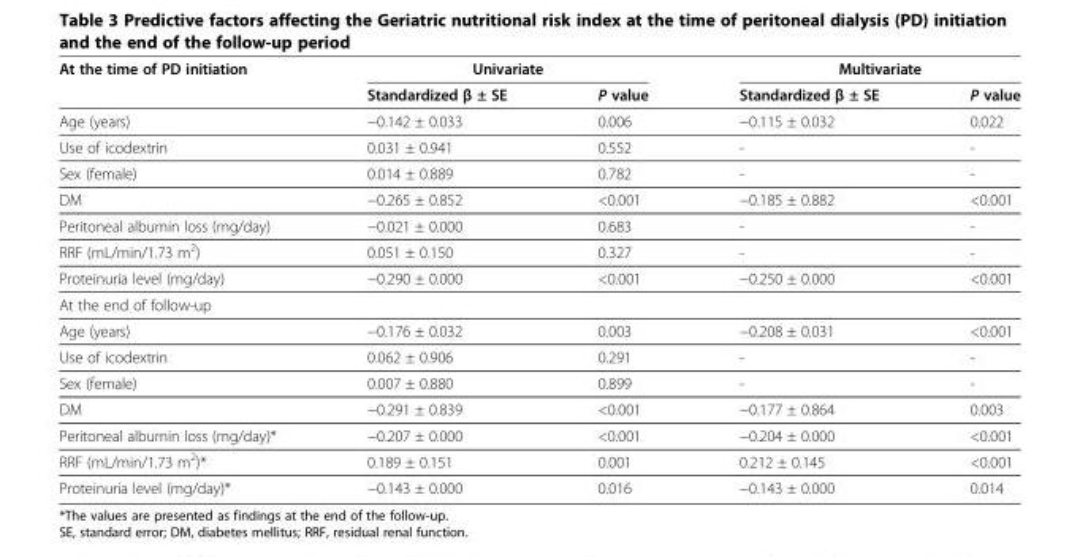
<table><thead><tr><td rowspan="2">At the time of PD initiation</td><td colspan="2">Univariate</td><td colspan="2">Multivariate</td></tr><tr><td>Standardized β ± SE</td><td>P value</td><td>Standardized β ± SE</td><td>P value</td></tr></thead><tbody><tr><td>Age (years)</td><td>−0.142 ± 0.033</td><td>0.006</td><td>−0.115 ± 0.032</td><td>0.022</td></tr><tr><td>Use of icodextrin</td><td>0.031 ± 0.941</td><td>0.552</td><td>-</td><td>-</td></tr><tr><td>Sex (female)</td><td>0.014 ± 0.889</td><td>0.782</td><td>-</td><td>-</td></tr><tr><td>DM</td><td>−0.265 ± 0.852</td><td>&lt;0.001</td><td>−0.185 ± 0.882</td><td>&lt;0.001</td></tr><tr><td>Peritoneal albumin loss (mg/day)</td><td>−0.021 ± 0.000</td><td>0.683</td><td>-</td><td>-</td></tr><tr><td>RRF (mL/min/1.73 m<sup>2</sup>)</td><td>0.051 ± 0.150</td><td>0.327</td><td>-</td><td>-</td></tr><tr><td>Proteinuria level (mg/day)</td><td>−0.290 ± 0.000</td><td>&lt;0.001</td><td>−0.250 ± 0.000</td><td>&lt;0.001</td></tr><tr><td colspan="5">At the end of follow-up</td></tr><tr><td>Age (years)</td><td>−0.176 ± 0.032</td><td>0.003</td><td>−0.208 ± 0.031</td><td>&lt;0.001</td></tr><tr><td>Use of icodextrin</td><td>0.062 ± 0.906</td><td>0.291</td><td>-</td><td>-</td></tr><tr><td>Sex (female)</td><td>0.007 ± 0.880</td><td>0.899</td><td>-</td><td>-</td></tr><tr><td>DM</td><td>−0.291 ± 0.839</td><td>&lt;0.001</td><td>−0.177 ± 0.864</td><td>0.003</td></tr><tr><td>Peritoneal albumin loss (mg/day)*</td><td>−0.207 ± 0.000</td><td>&lt;0.001</td><td>−0.204 ± 0.000</td><td>&lt;0.001</td></tr><tr><td>RRF (mL/min/1.73 m<sup>2</sup>)*</td><td>0.189 ± 0.151</td><td>0.001</td><td>0.212 ± 0.145</td><td>&lt;0.001</td></tr><tr><td>Proteinuria level (mg/day)*</td><td>−0.143 ± 0.000</td><td>0.016</td><td>−0.143 ± 0.000</td><td>0.014</td></tr></tbody></table>